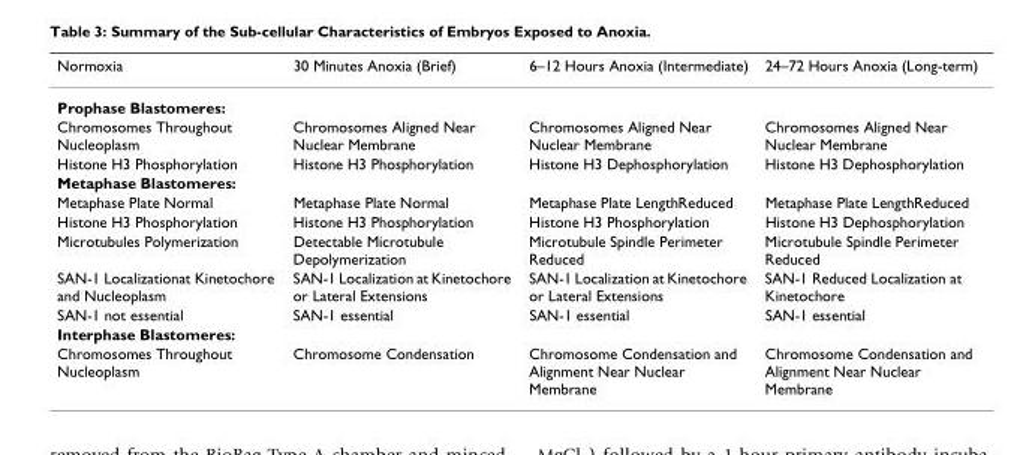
<table><thead><tr><td>Normoxia</td><td>30 Minutes Anoxia (Brief)</td><td>6–12 Hours Anoxia (Intermediate)</td><td>24–72 Hours Anoxia (Long-term)</td></tr></thead><tbody><tr><td colspan="4">Prophase Blastomeres:</td></tr><tr><td>Chromosomes Throughout Nucleoplasm</td><td>Chromosomes Aligned Near Nuclear Membrane</td><td>Chromosomes Aligned Near Nuclear Membrane</td><td>Chromosomes Aligned Near Nuclear Membrane</td></tr><tr><td>Histone H3 Phosphorylation</td><td>Histone H3 Phosphorylation</td><td>Histone H3 Dephosphorylation</td><td>Histone H3 Dephosphorylation</td></tr><tr><td colspan="4">Metaphase Blastomeres:</td></tr><tr><td>Metaphase Plate Normal</td><td>Metaphase Plate Normal</td><td>Metaphase Plate LengthReduced</td><td>Metaphase Plate LengthReduced</td></tr><tr><td>Histone H3 Phosphorylation</td><td>Histone H3 Phosphorylation</td><td>Histone H3 Phosphorylation</td><td>Histone H3 Dephosphorylation</td></tr><tr><td>Microtubules Polymerization</td><td>Detectable Microtubule Depolymerization</td><td>Microtubule Spindle Perimeter Reduced</td><td>Microtubule Spindle Perimeter Reduced</td></tr><tr><td>SAN-1 Localizationat Kinetochore and Nucleoplasm</td><td>SAN-1 Localization at Kinetochore or Lateral Extensions</td><td>SAN-1 Localization at Kinetochore or Lateral Extensions</td><td>SAN-1 Reduced Localization at Kinetochore</td></tr><tr><td>SAN-1 not essential</td><td>SAN-1 essential</td><td>SAN-1 essential</td><td>SAN-1 essential</td></tr><tr><td colspan="4">Interphase Blastomeres:</td></tr><tr><td>Chromosomes Throughout Nucleoplasm</td><td>Chromosome Condensation</td><td>Chromosome Condensation and Alignment Near Nuclear Membrane</td><td>Chromosome Condensation and Alignment Near Nuclear Membrane</td></tr></tbody></table>